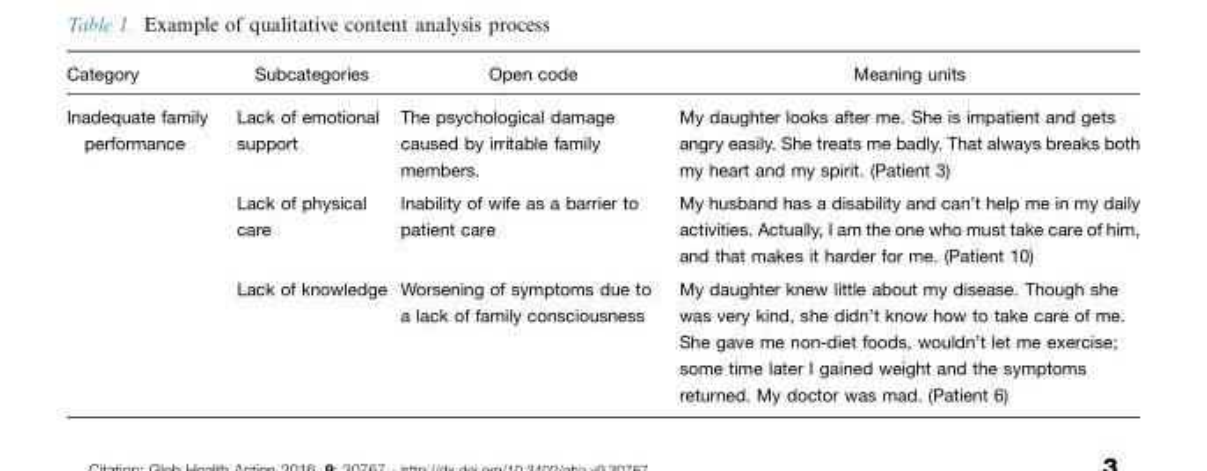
<table><thead><tr><td>Category</td><td>Subcategories</td><td>Open code</td><td>Meaning units</td></tr></thead><tbody><tr><td rowspan="3">Inadequate family performance</td><td>Lack of emotional support</td><td>The psychological damage caused by irritable family members.</td><td>My daughter looks after me. She is impatient and gets angry easily. She treats me badly. That always breaks both my heart and my spirit. (Patient 3)</td></tr><tr><td>Lack of physical care</td><td>Inability of wife as a barrier to patient care</td><td>My husband has a disability and can’t help me in my daily activities. Actually, I am the one who must take care of him, and that makes it harder for me. (Patient 10)</td></tr><tr><td>Lack of knowledge</td><td>Worsening of symptoms due to a lack of family consciousness</td><td>My daughter knew little about my disease. Though she was very kind, she didn’t know how to take care of me. She gave me non-diet foods, wouldn’t let me exercise; some time later I gained weight and the symptoms returned. My doctor was mad. (Patient 6)</td></tr></tbody></table>